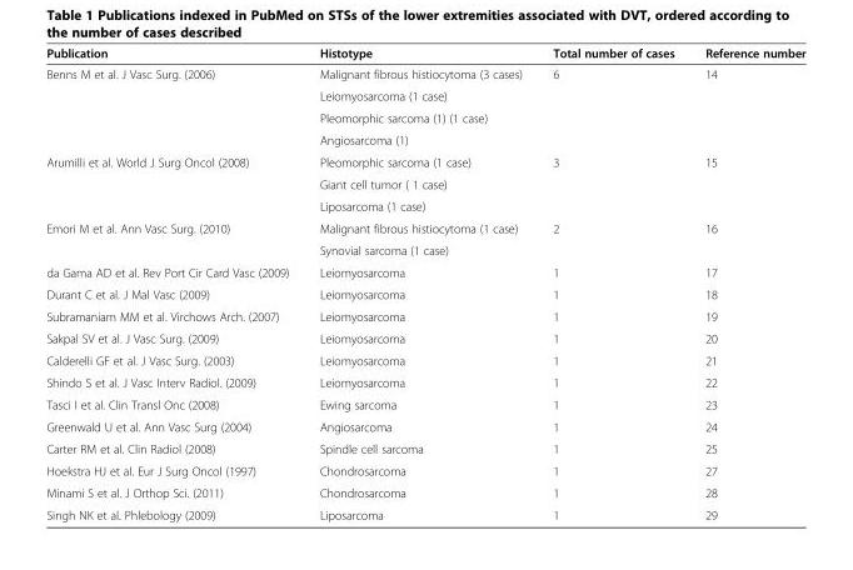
<table><thead><tr><td>Publication</td><td>Histotype</td><td>Total number of cases</td><td>Reference number</td></tr></thead><tbody><tr><td rowspan="4">Benns M et al. J Vasc Surg. (2006)</td><td>Malignant fibrous histiocytoma (3 cases)</td><td>6</td><td>14</td></tr><tr><td>Leiomyosarcoma (1 case)</td><td></td><td></td></tr><tr><td>Pleomorphic sarcoma (1) (1 case)</td><td></td><td></td></tr><tr><td>Angiosarcoma (1)</td><td></td><td></td></tr><tr><td rowspan="3">Arumilli et al. World J Surg Oncol (2008)</td><td>Pleomorphic sarcoma (1 case)</td><td>3</td><td>15</td></tr><tr><td>Giant cell tumor ( 1 case)</td><td></td><td></td></tr><tr><td>Liposarcoma (1 case)</td><td></td><td></td></tr><tr><td rowspan="2">Emori M et al. Ann Vasc Surg. (2010)</td><td>Malignant fibrous histiocytoma (1 case)</td><td>2</td><td>16</td></tr><tr><td>Synovial sarcoma (1 case)</td><td></td><td></td></tr><tr><td>da Gama AD et al. Rev Port Cir Card Vasc (2009)</td><td>Leiomyosarcoma</td><td>1</td><td>17</td></tr><tr><td>Durant C et al. J Mal Vasc (2009)</td><td>Leiomyosarcoma</td><td>1</td><td>18</td></tr><tr><td>Subramaniam MM et al. Virchows Arch. (2007)</td><td>Leiomyosarcoma</td><td>1</td><td>19</td></tr><tr><td>Sakpal SV et al. J Vasc Surg. (2009)</td><td>Leiomyosarcoma</td><td>1</td><td>20</td></tr><tr><td>Calderelli GF et al. J Vasc Surg. (2003)</td><td>Leiomyosarcoma</td><td>1</td><td>21</td></tr><tr><td>Shindo S et al. J Vasc Interv Radiol. (2009)</td><td>Leiomyosarcoma</td><td>1</td><td>22</td></tr><tr><td>Tasci I et al. Clin Transl Onc (2008)</td><td>Ewing sarcoma</td><td>1</td><td>23</td></tr><tr><td>Greenwald U et al. Ann Vasc Surg (2004)</td><td>Angiosarcoma</td><td>1</td><td>24</td></tr><tr><td>Carter RM et al. Clin Radiol (2008)</td><td>Spindle cell sarcoma</td><td>1</td><td>25</td></tr><tr><td>Hoekstra HJ et al. Eur J Surg Oncol (1997)</td><td>Chondrosarcoma</td><td>1</td><td>27</td></tr><tr><td>Minami S et al. J Orthop Sci. (2011)</td><td>Chondrosarcoma</td><td>1</td><td>28</td></tr><tr><td>Singh NK et al. Phlebology (2009)</td><td>Liposarcoma</td><td>1</td><td>29</td></tr></tbody></table>